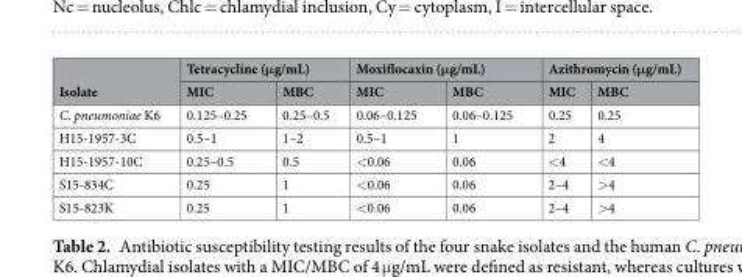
<table><thead><tr><td rowspan="2">Isolate</td><td colspan="2">Tetracycline (μg/mL)</td><td colspan="2">Moxiflocaxin (μg/mL)</td><td colspan="2">Azithromycin (μg/mL)</td></tr><tr><td>MIC</td><td>MBC</td><td>MIC</td><td>MBC</td><td>MIC</td><td>MBC</td></tr></thead><tbody><tr><td>C. pneumoniae K6</td><td>0.125–0.25</td><td>0.25–0.5</td><td>0.06–0.125</td><td>0.06–0.125</td><td>0.25</td><td>0.25</td></tr><tr><td>H15-1957-3C</td><td>0.5–1</td><td>1–2</td><td>0.5–1</td><td>1</td><td>2</td><td>4</td></tr><tr><td>H15-1957-10C</td><td>0.25–0.5</td><td>0.5</td><td>&lt;0.06</td><td>0.06</td><td>&lt;4</td><td>&lt;4</td></tr><tr><td>S15-834C</td><td>0.25</td><td>1</td><td>&lt;0.06</td><td>0.06</td><td>2–4</td><td>&gt;4</td></tr><tr><td>S15-823K</td><td>0.25</td><td>1</td><td>&lt;0.06</td><td>0.06</td><td>2–4</td><td>&gt;4</td></tr></tbody></table>